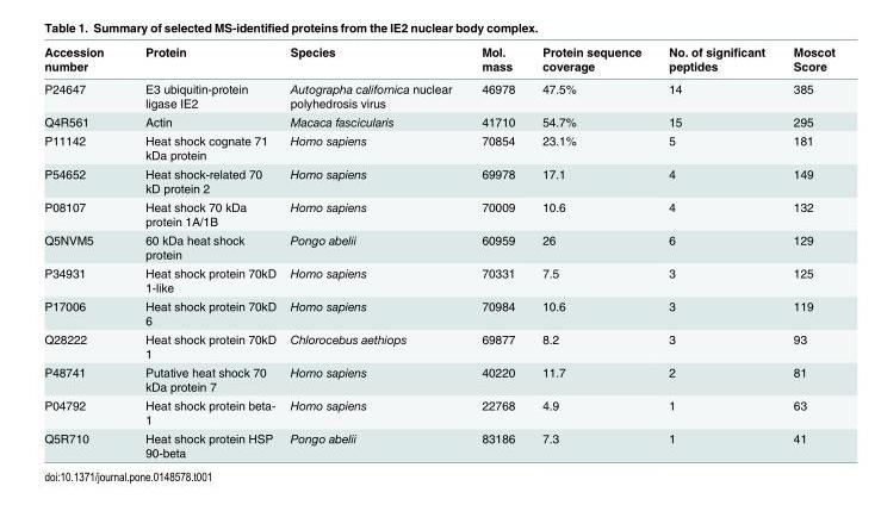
<table><thead><tr><td>Accession number</td><td>Protein</td><td>Species</td><td>Mol. mass</td><td>Protein sequence coverage</td><td>No. of significant peptides</td><td>Moscot Score</td></tr></thead><tbody><tr><td>P24647</td><td>E3 ubiquitin-protein ligase IE2</td><td>Autographa californica nuclear polyhedrosis virus</td><td>46978</td><td>47.5%</td><td>14</td><td>385</td></tr><tr><td>Q4R561</td><td>Actin</td><td>Macaca fascicularis</td><td>41710</td><td>54.7%</td><td>15</td><td>295</td></tr><tr><td>P11142</td><td>Heat shock cognate 71 kDa protein</td><td>Homo sapiens</td><td>70854</td><td>23.1%</td><td>5</td><td>181</td></tr><tr><td>P54652</td><td>Heat shock-related 70 kD protein 2</td><td>Homo sapiens</td><td>69978</td><td>17.1</td><td>4</td><td>149</td></tr><tr><td>P08107</td><td>Heat shock 70 kDa protein 1A/1B</td><td>Homo sapiens</td><td>70009</td><td>10.6</td><td>4</td><td>132</td></tr><tr><td>Q5NVM5</td><td>60 kDa heat shock protein</td><td>Pongo abelii</td><td>60959</td><td>26</td><td>6</td><td>129</td></tr><tr><td>P34931</td><td>Heat shock protein 70kD 1-like</td><td>Homo sapiens</td><td>70331</td><td>7.5</td><td>3</td><td>125</td></tr><tr><td>P17006</td><td>Heat shock protein 70kD 6</td><td>Homo sapiens</td><td>70984</td><td>10.6</td><td>3</td><td>119</td></tr><tr><td>Q28222</td><td>Heat shock protein 70kD 1</td><td>Chlorocebus aethiops</td><td>69877</td><td>8.2</td><td>3</td><td>93</td></tr><tr><td>P48741</td><td>Putative heat shock 70 kDa protein 7</td><td>Homo sapiens</td><td>40220</td><td>11.7</td><td>2</td><td>81</td></tr><tr><td>P04792</td><td>Heat shock protein beta- 1</td><td>Homo sapiens</td><td>22768</td><td>4.9</td><td>1</td><td>63</td></tr><tr><td>Q5R710</td><td>Heat shock protein HSP 90-beta</td><td>Pongo abelii</td><td>83186</td><td>7.3</td><td>1</td><td>41</td></tr></tbody></table>